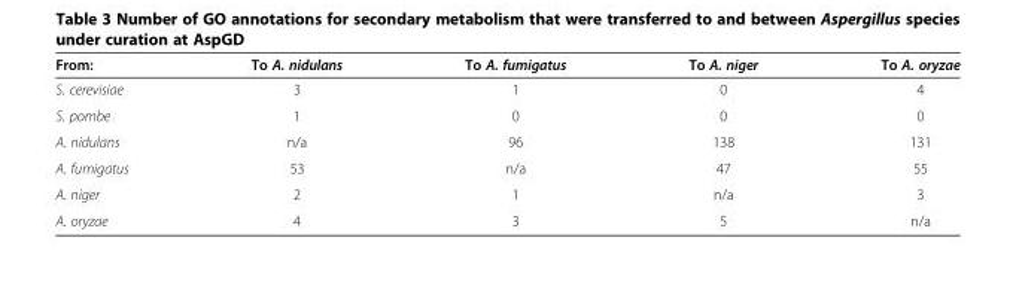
<table><thead><tr><td>From:</td><td>To A. nidulans</td><td>To A. fumigatus</td><td>To A. niger</td><td>To A. oryzae</td></tr></thead><tbody><tr><td>S. cerevisiae</td><td>3</td><td>1</td><td>0</td><td>4</td></tr><tr><td>S. pombe</td><td>1</td><td>0</td><td>0</td><td>0</td></tr><tr><td>A. nidulans</td><td>n/a</td><td>96</td><td>138</td><td>131</td></tr><tr><td>A. fumigatus</td><td>53</td><td>n/a</td><td>47</td><td>55</td></tr><tr><td>A. niger</td><td>2</td><td>1</td><td>n/a</td><td>3</td></tr><tr><td>A. oryzae</td><td>4</td><td>3</td><td>5</td><td>n/a</td></tr></tbody></table>